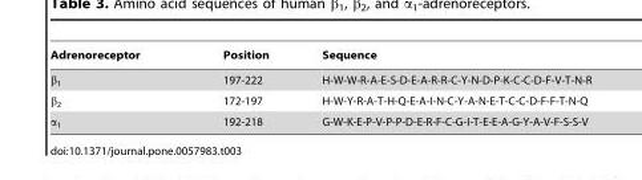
<table><thead><tr><td>Adrenoreceptor</td><td>Position</td><td>Sequence</td></tr></thead><tbody><tr><td>β<sub>1</sub></td><td>197-222</td><td>H-W-W-R-A-E-S-D-E-A-R-R-C-Y-N-D-P-K-C-C-D-F-V-T-N-R</td></tr><tr><td>β<sub>2</sub></td><td>172-197</td><td>H-W-Y-R-A-T-H-Q-E-A-I-N-C-Y-A-N-E-T-C-C-D-F-F-T-N-Q</td></tr><tr><td>α<sub>1</sub></td><td>192-218</td><td>G-W-K-E-P-V-P-P-D-E-R-F-C-G-I-T-E-E-A-G-Y-A-V-F-S-S-V</td></tr></tbody></table>